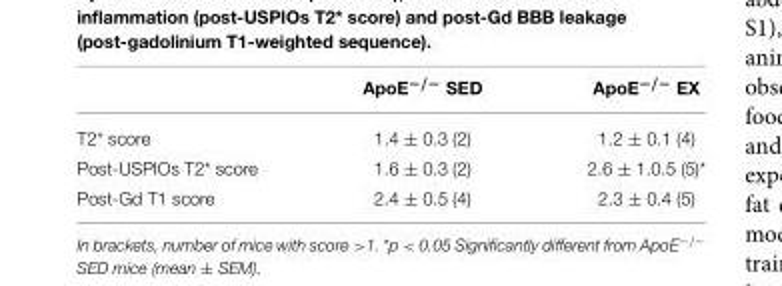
<table><thead><tr><td></td><td>ApoE<sup>−/−</sup> SED</td><td>ApoE<sup>−/−</sup> EX</td></tr></thead><tbody><tr><td>T2* score</td><td>1.4 ± 0.3 (2)</td><td>1.2 ± 0.1 (4)</td></tr><tr><td>Post-USPIOs T2* score</td><td>1.6 ± 0.3 (2)</td><td>2.6 ± 1.0.5 (5)*</td></tr><tr><td>Post-Gd T1 score</td><td>2.4 ± 0.5 (4)</td><td>2.3 ± 0.4 (5)</td></tr></tbody></table>